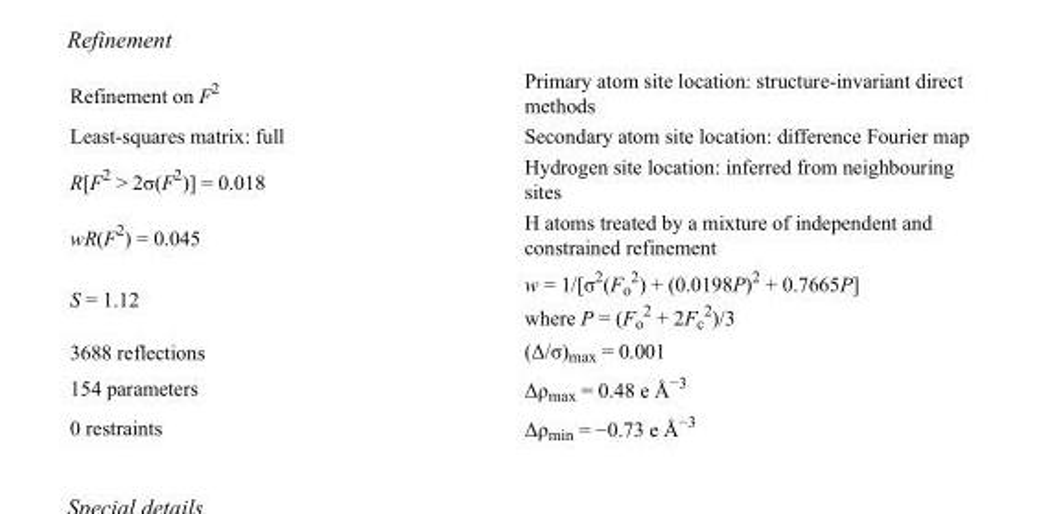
<table><tbody><tr><td>Refinement on F<sup>2</sup></td><td>Primary atom site location: structure-invariant direct methods</td></tr><tr><td>Least-squares matrix: full</td><td>Secondary atom site location: difference Fourier map</td></tr><tr><td>R[F<sup>2</sup> &gt; 2σ(F<sup>2</sup>)] = 0.018</td><td>Hydrogen site location: inferred from neighbouring sites</td></tr><tr><td>wR(F<sup>2</sup>) = 0.045</td><td>H atoms treated by a mixture of independent and constrained refinement</td></tr><tr><td>S = 1.12</td><td>w = 1/[σ<sup>2</sup>(F<sub>o</sub> <sup>2</sup>) + (0.0198P)<sup>2</sup> + 0.7665P] where P = (F<sub>o</sub> <sup>2</sup> + 2F<sub>c</sub> <sup>2</sup>)/3</td></tr><tr><td>3688 reflections</td><td>(Δ/σ)<sub>max</sub> = 0.001</td></tr><tr><td>154 parameters</td><td>Δρ<sub>max</sub> = 0.48 e Å<sup>−3</sup></td></tr><tr><td>0 restraints</td><td>Δρ<sub>min</sub> = −0.73 e Å<sup>−3</sup></td></tr></tbody></table>